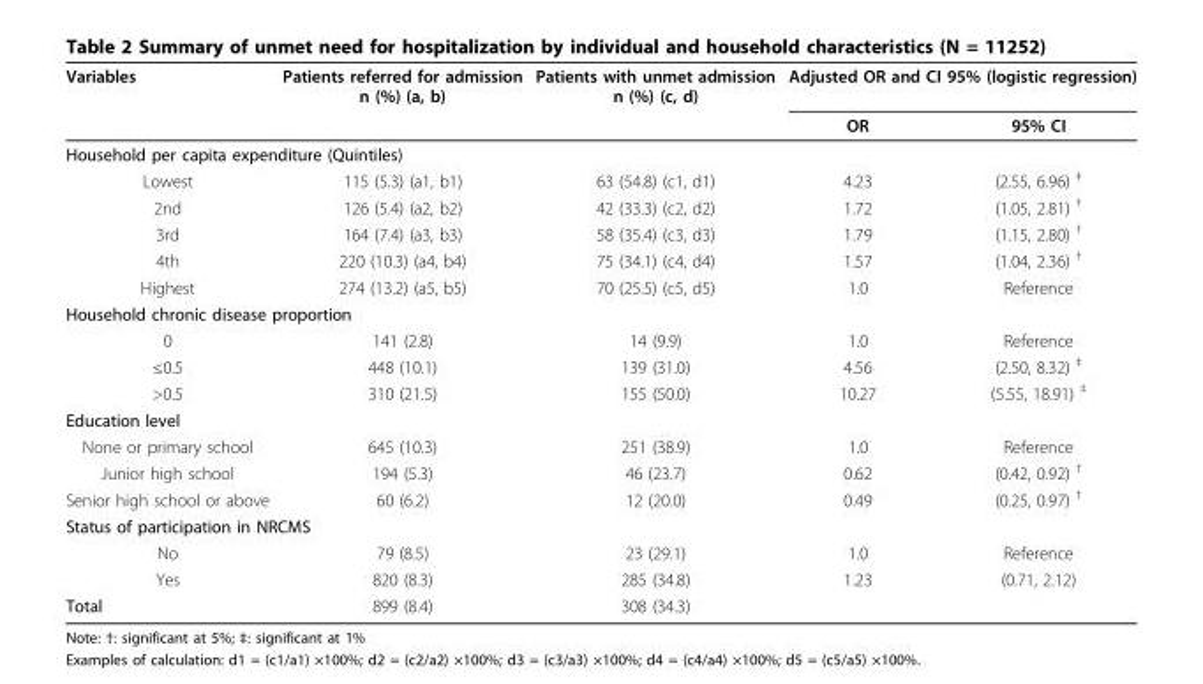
<table><thead><tr><td rowspan="2">Variables</td><td rowspan="2">Patients referred for admission n (%) (a, b)</td><td rowspan="2">Patients with unmet admission n (%) (c, d)</td><td colspan="2">Adjusted OR and CI 95% (logistic regression)</td></tr><tr><td>OR</td><td>95% CI</td></tr></thead><tbody><tr><td colspan="5">Household per capita expenditure (Quintiles)</td></tr><tr><td>Lowest</td><td>115 (5.3) (a1, b1)</td><td>63 (54.8) (c1, d1)</td><td>4.23</td><td>(2.55, 6.96) <sup>‡</sup></td></tr><tr><td>2nd</td><td>126 (5.4) (a2, b2)</td><td>42 (33.3) (c2, d2)</td><td>1.72</td><td>(1.05, 2.81) <sup>†</sup></td></tr><tr><td>3rd</td><td>164 (7.4) (a3, b3)</td><td>58 (35.4) (c3, d3)</td><td>1.79</td><td>(1.15, 2.80) <sup>†</sup></td></tr><tr><td>4th</td><td>220 (10.3) (a4, b4)</td><td>75 (34.1) (c4, d4)</td><td>1.57</td><td>(1.04, 2.36) <sup>†</sup></td></tr><tr><td>Highest</td><td>274 (13.2) (a5, b5)</td><td>70 (25.5) (c5, d5)</td><td>1.0</td><td>Reference</td></tr><tr><td colspan="5">Household chronic disease proportion</td></tr><tr><td>0</td><td>141 (2.8)</td><td>14 (9.9)</td><td>1.0</td><td>Reference</td></tr><tr><td>≤0.5</td><td>448 (10.1)</td><td>139 (31.0)</td><td>4.56</td><td>(2.50, 8.32) <sup>‡</sup></td></tr><tr><td>&gt;0.5</td><td>310 (21.5)</td><td>155 (50.0)</td><td>10.27</td><td>(5.55, 18.91) <sup>‡</sup></td></tr><tr><td colspan="5">Education level</td></tr><tr><td>None or primary school</td><td>645 (10.3)</td><td>251 (38.9)</td><td>1.0</td><td>Reference</td></tr><tr><td>Junior high school</td><td>194 (5.3)</td><td>46 (23.7)</td><td>0.62</td><td>(0.42, 0.92) <sup>†</sup></td></tr><tr><td>Senior high school or above</td><td>60 (6.2)</td><td>12 (20.0)</td><td>0.49</td><td>(0.25, 0.97) <sup>†</sup></td></tr><tr><td colspan="5">Status of participation in NRCMS</td></tr><tr><td>No</td><td>79 (8.5)</td><td>23 (29.1)</td><td>1.0</td><td>Reference</td></tr><tr><td>Yes</td><td>820 (8.3)</td><td>285 (34.8)</td><td>1.23</td><td>(0.71, 2.12)</td></tr><tr><td>Total</td><td>899 (8.4)</td><td>308 (34.3)</td><td></td><td></td></tr></tbody></table>